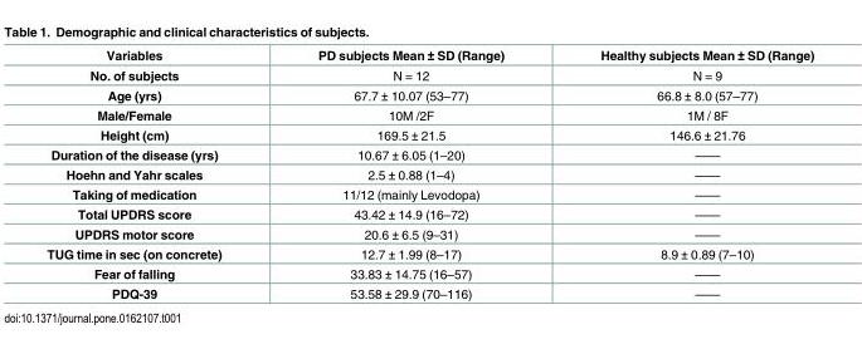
<table><thead><tr><td>Variables</td><td>PD subjects Mean ± SD (Range)</td><td>Healthy subjects Mean ± SD (Range)</td></tr></thead><tbody><tr><td>No. of subjects</td><td>N = 12</td><td>N = 9</td></tr><tr><td>Age (yrs)</td><td>67.7 ± 10.07 (53–77)</td><td>66.8 ± 8.0 (57–77)</td></tr><tr><td>Male/Female</td><td>10M /2F</td><td>1M / 8F</td></tr><tr><td>Height (cm)</td><td>169.5 ± 21.5</td><td>146.6 ± 21.76</td></tr><tr><td>Duration of the disease (yrs)</td><td>10.67 ± 6.05 (1–20)</td><td>——</td></tr><tr><td>Hoehn and Yahr scales</td><td>2.5 ± 0.88 (1–4)</td><td>——</td></tr><tr><td>Taking of medication</td><td>11/12 (mainly Levodopa)</td><td>——</td></tr><tr><td>Total UPDRS score</td><td>43.42 ± 14.9 (16–72)</td><td>——</td></tr><tr><td>UPDRS motor score</td><td>20.6 ± 6.5 (9–31)</td><td>——</td></tr><tr><td>TUG time in sec (on concrete)</td><td>12.7 ± 1.99 (8–17)</td><td>8.9 ± 0.89 (7–10)</td></tr><tr><td>Fear of falling</td><td>33.83 ± 14.75 (16–57)</td><td>——</td></tr><tr><td>PDQ-39</td><td>53.58 ± 29.9 (70–116)</td><td>——</td></tr></tbody></table>